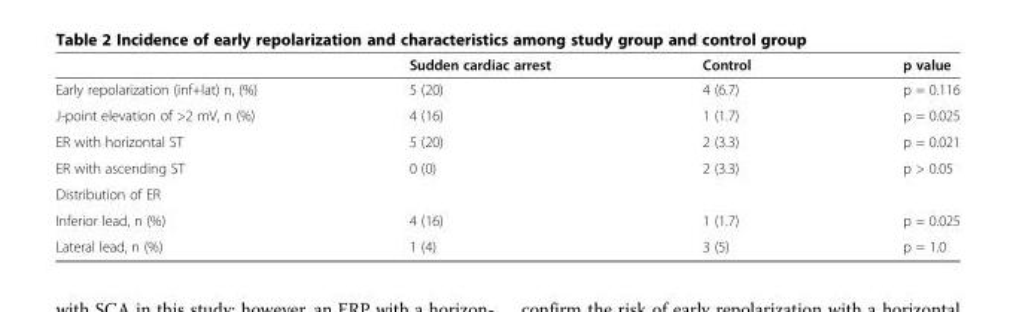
<table><thead><tr><td></td><td>Sudden cardiac arrest</td><td>Control</td><td>p value</td></tr></thead><tbody><tr><td>Early repolarization (inf+lat) n, (%)</td><td>5 (20)</td><td>4 (6.7)</td><td>p = 0.116</td></tr><tr><td>J-point elevation of &gt;2 mV, n (%)</td><td>4 (16)</td><td>1 (1.7)</td><td>p = 0.025</td></tr><tr><td>ER with horizontal ST</td><td>5 (20)</td><td>2 (3.3)</td><td>p = 0.021</td></tr><tr><td>ER with ascending ST</td><td>0 (0)</td><td>2 (3.3)</td><td>p &gt; 0.05</td></tr><tr><td colspan="4">Distribution of ER</td></tr><tr><td>Inferior lead, n (%)</td><td>4 (16)</td><td>1 (1.7)</td><td>p = 0.025</td></tr><tr><td>Lateral lead, n (%)</td><td>1 (4)</td><td>3 (5)</td><td>p = 1.0</td></tr></tbody></table>